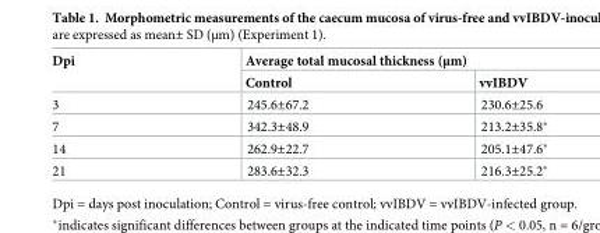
<table><thead><tr><td rowspan="2">Dpi</td><td colspan="2">Average total mucosal thickness (μm)</td></tr><tr><td>Control</td><td>vvIBDV</td></tr></thead><tbody><tr><td>3</td><td>245.6±67.2</td><td>230.6±25.6</td></tr><tr><td>7</td><td>342.3±48.9</td><td>213.2±35.8*</td></tr><tr><td>14</td><td>262.9±22.7</td><td>205.1±47.6*</td></tr><tr><td>21</td><td>283.6±32.3</td><td>216.3±25.2*</td></tr></tbody></table>